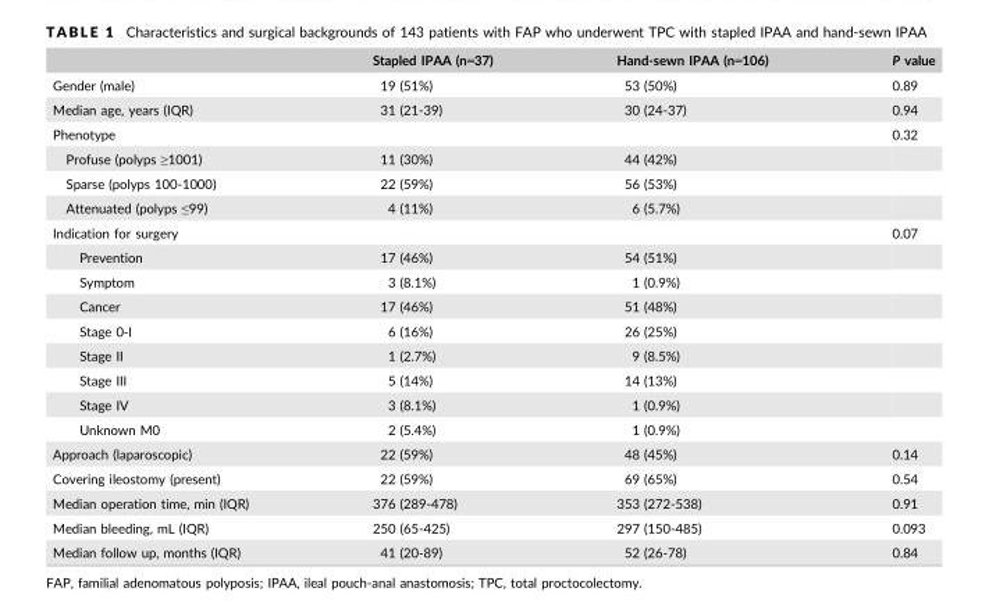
<table><thead><tr><td></td><td>Stapled IPAA (n=37)</td><td>Hand-sewn IPAA (n=106)</td><td>P value</td></tr></thead><tbody><tr><td>Gender (male)</td><td>19 (51%)</td><td>53 (50%)</td><td>0.89</td></tr><tr><td>Median age, years (IQR)</td><td>31 (21-39)</td><td>30 (24-37)</td><td>0.94</td></tr><tr><td>Phenotype</td><td></td><td></td><td>0.32</td></tr><tr><td>Profuse (polyps ≥1001)</td><td>11 (30%)</td><td>44 (42%)</td><td></td></tr><tr><td>Sparse (polyps 100-1000)</td><td>22 (59%)</td><td>56 (53%)</td><td></td></tr><tr><td>Attenuated (polyps ≤99)</td><td>4 (11%)</td><td>6 (5.7%)</td><td></td></tr><tr><td>Indication for surgery</td><td></td><td></td><td>0.07</td></tr><tr><td>Prevention</td><td>17 (46%)</td><td>54 (51%)</td><td></td></tr><tr><td>Symptom</td><td>3 (8.1%)</td><td>1 (0.9%)</td><td></td></tr><tr><td>Cancer</td><td>17 (46%)</td><td>51 (48%)</td><td></td></tr><tr><td>Stage 0-I</td><td>6 (16%)</td><td>26 (25%)</td><td></td></tr><tr><td>Stage II</td><td>1 (2.7%)</td><td>9 (8.5%)</td><td></td></tr><tr><td>Stage III</td><td>5 (14%)</td><td>14 (13%)</td><td></td></tr><tr><td>Stage IV</td><td>3 (8.1%)</td><td>1 (0.9%)</td><td></td></tr><tr><td>Unknown M0</td><td>2 (5.4%)</td><td>1 (0.9%)</td><td></td></tr><tr><td>Approach (laparoscopic)</td><td>22 (59%)</td><td>48 (45%)</td><td>0.14</td></tr><tr><td>Covering ileostomy (present)</td><td>22 (59%)</td><td>69 (65%)</td><td>0.54</td></tr><tr><td>Median operation time, min (IQR)</td><td>376 (289-478)</td><td>353 (272-538)</td><td>0.91</td></tr><tr><td>Median bleeding, mL (IQR)</td><td>250 (65-425)</td><td>297 (150-485)</td><td>0.093</td></tr><tr><td>Median follow up, months (IQR)</td><td>41 (20-89)</td><td>52 (26-78)</td><td>0.84</td></tr></tbody></table>